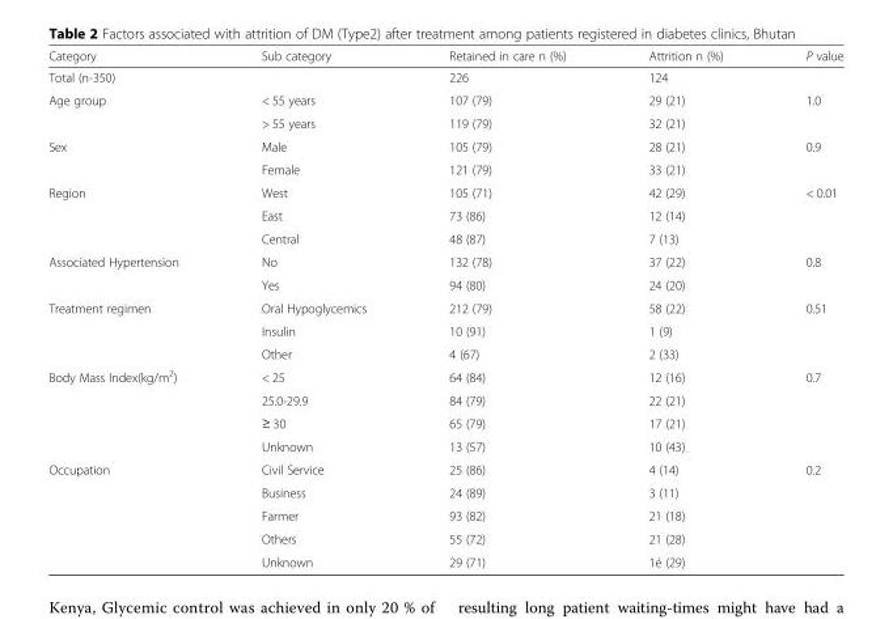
<table><thead><tr><td>Category</td><td>Sub category</td><td>Retained in care n (%)</td><td>Attrition n (%)</td><td>P value</td></tr></thead><tbody><tr><td>Total (n-350)</td><td></td><td>226</td><td>124</td><td></td></tr><tr><td rowspan="2">Age group</td><td>&lt; 55 years</td><td>107 (79)</td><td>29 (21)</td><td>1.0</td></tr><tr><td>&gt; 55 years</td><td>119 (79)</td><td>32 (21)</td><td></td></tr><tr><td rowspan="2">Sex</td><td>Male</td><td>105 (79)</td><td>28 (21)</td><td>0.9</td></tr><tr><td>Female</td><td>121 (79)</td><td>33 (21)</td><td></td></tr><tr><td rowspan="3">Region</td><td>West</td><td>105 (71)</td><td>42 (29)</td><td>&lt; 0.01</td></tr><tr><td>East</td><td>73 (86)</td><td>12 (14)</td><td></td></tr><tr><td>Central</td><td>48 (87)</td><td>7 (13)</td><td></td></tr><tr><td rowspan="2">Associated Hypertension</td><td>No</td><td>132 (78)</td><td>37 (22)</td><td>0.8</td></tr><tr><td>Yes</td><td>94 (80)</td><td>24 (20)</td><td></td></tr><tr><td rowspan="3">Treatment regimen</td><td>Oral Hypoglycemics</td><td>212 (79)</td><td>58 (22)</td><td>0.51</td></tr><tr><td>Insulin</td><td>10 (91)</td><td>1 (9)</td><td></td></tr><tr><td>Other</td><td>4 (67)</td><td>2 (33)</td><td></td></tr><tr><td rowspan="4">Body Mass Index(kg/m<sup>2</sup>)</td><td>&lt; 25</td><td>64 (84)</td><td>12 (16)</td><td>0.7</td></tr><tr><td>25.0-29.9</td><td>84 (79)</td><td>22 (21)</td><td></td></tr><tr><td>≥ 30</td><td>65 (79)</td><td>17 (21)</td><td></td></tr><tr><td>Unknown</td><td>13 (57)</td><td>10 (43)</td><td></td></tr><tr><td rowspan="5">Occupation</td><td>Civil Service</td><td>25 (86)</td><td>4 (14)</td><td>0.2</td></tr><tr><td>Business</td><td>24 (89)</td><td>3 (11)</td><td></td></tr><tr><td>Farmer</td><td>93 (82)</td><td>21 (18)</td><td></td></tr><tr><td>Others</td><td>55 (72)</td><td>21 (28)</td><td></td></tr><tr><td>Unknown</td><td>29 (71)</td><td>1é (29)</td><td></td></tr></tbody></table>